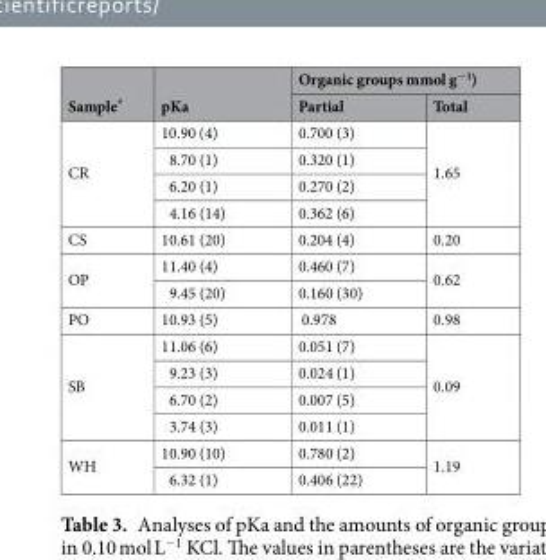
<table><thead><tr><td rowspan="2">Sample*</td><td rowspan="2">pKa</td><td colspan="2">Organic groups mmol g<sup>−1</sup>)</td></tr><tr><td>Partial</td><td>Total</td></tr></thead><tbody><tr><td rowspan="4">CR</td><td>10.90 (4)</td><td>0.700 (3)</td><td rowspan="4">1.65</td></tr><tr><td>8.70 (1)</td><td>0.320 (1)</td></tr><tr><td>6.20 (1)</td><td>0.270 (2)</td></tr><tr><td>4.16 (14)</td><td>0.362 (6)</td></tr><tr><td>CS</td><td>10.61 (20)</td><td>0.204 (4)</td><td>0.20</td></tr><tr><td rowspan="2">OP</td><td>11.40 (4)</td><td>0.460 (7)</td><td rowspan="2">0.62</td></tr><tr><td>9.45 (20)</td><td>0.160 (30)</td></tr><tr><td>PO</td><td>10.93 (5)</td><td>0.978</td><td>0.98</td></tr><tr><td rowspan="4">SB</td><td>11.06 (6)</td><td>0.051 (7)</td><td rowspan="4">0.09</td></tr><tr><td>9.23 (3)</td><td>0.024 (1)</td></tr><tr><td>6.70 (2)</td><td>0.007 (5)</td></tr><tr><td>3.74 (3)</td><td>0.011 (1)</td></tr><tr><td rowspan="2">WH</td><td>10.90 (10)</td><td>0.780 (2)</td><td rowspan="2">1.19</td></tr><tr><td>6.32 (1)</td><td>0.406 (22)</td></tr></tbody></table>